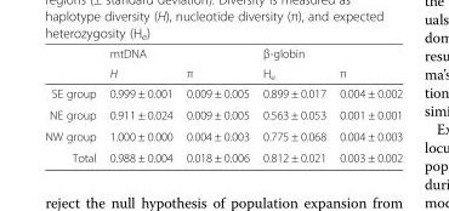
<table><thead><tr><td rowspan="2"></td><td rowspan="2">mtDNA H</td><td rowspan="2">π</td><td rowspan="2">β-globin H<sub>e</sub></td><td rowspan="2">π</td></tr><tr></tr></thead><tbody><tr><td>SE group</td><td>0.999 ± 0.001</td><td>0.009 ± 0.005</td><td>0.899 ± 0.017</td><td>0.004 ± 0.002</td></tr><tr><td>NE group</td><td>0.911 ± 0.024</td><td>0.009 ± 0.005</td><td>0.563 ± 0.053</td><td>0.001 ± 0.001</td></tr><tr><td>NW group</td><td>1.000 ± 0.000</td><td>0.004 ± 0.003</td><td>0.775 ± 0.068</td><td>0.004 ± 0.003</td></tr><tr><td>Total</td><td>0.988 ± 0.004</td><td>0.018 ± 0.006</td><td>0.812 ± 0.021</td><td>0.003 ± 0.002</td></tr></tbody></table>